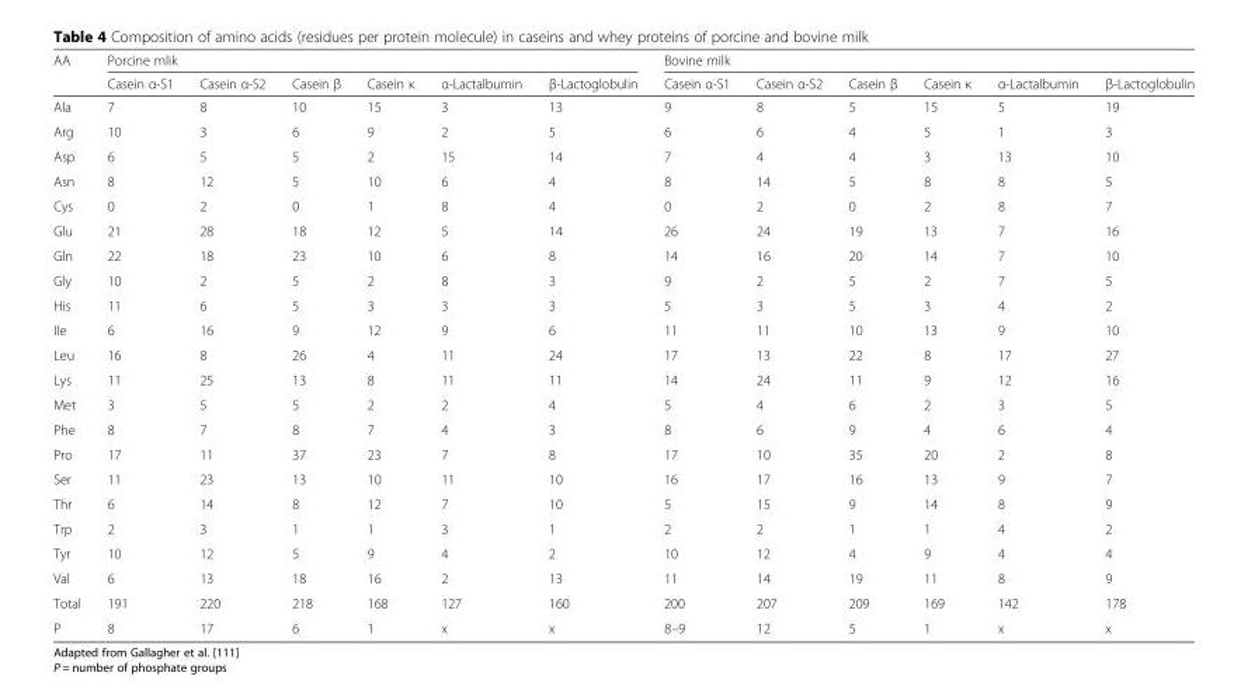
<table><thead><tr><td rowspan="2">AA</td><td colspan="6">Porcine mlik</td><td colspan="6">Bovine milk</td></tr><tr><td>Casein α-S1</td><td>Casein α-S2</td><td>Casein β</td><td>Casein κ</td><td>α-Lactalbumin</td><td>β-Lactoglobulin</td><td>Casein α-S1</td><td>Casein α-S2</td><td>Casein β</td><td>Casein κ</td><td>α-Lactalbumin</td><td>β-Lactoglobulin</td></tr></thead><tbody><tr><td>Ala</td><td>7</td><td>8</td><td>10</td><td>15</td><td>3</td><td>13</td><td>9</td><td>8</td><td>5</td><td>15</td><td>5</td><td>19</td></tr><tr><td>Arg</td><td>10</td><td>3</td><td>6</td><td>9</td><td>2</td><td>5</td><td>6</td><td>6</td><td>4</td><td>5</td><td>1</td><td>3</td></tr><tr><td>Asp</td><td>6</td><td>5</td><td>5</td><td>2</td><td>15</td><td>14</td><td>7</td><td>4</td><td>4</td><td>3</td><td>13</td><td>10</td></tr><tr><td>Asn</td><td>8</td><td>12</td><td>5</td><td>10</td><td>6</td><td>4</td><td>8</td><td>14</td><td>5</td><td>8</td><td>8</td><td>5</td></tr><tr><td>Cys</td><td>0</td><td>2</td><td>0</td><td>1</td><td>8</td><td>4</td><td>0</td><td>2</td><td>0</td><td>2</td><td>8</td><td>7</td></tr><tr><td>Glu</td><td>21</td><td>28</td><td>18</td><td>12</td><td>5</td><td>14</td><td>26</td><td>24</td><td>19</td><td>13</td><td>7</td><td>16</td></tr><tr><td>Gln</td><td>22</td><td>18</td><td>23</td><td>10</td><td>6</td><td>8</td><td>14</td><td>16</td><td>20</td><td>14</td><td>7</td><td>10</td></tr><tr><td>Gly</td><td>10</td><td>2</td><td>5</td><td>2</td><td>8</td><td>3</td><td>9</td><td>2</td><td>5</td><td>2</td><td>7</td><td>5</td></tr><tr><td>His</td><td>11</td><td>6</td><td>5</td><td>3</td><td>3</td><td>3</td><td>5</td><td>3</td><td>5</td><td>3</td><td>4</td><td>2</td></tr><tr><td>Ile</td><td>6</td><td>16</td><td>9</td><td>12</td><td>9</td><td>6</td><td>11</td><td>11</td><td>10</td><td>13</td><td>9</td><td>10</td></tr><tr><td>Leu</td><td>16</td><td>8</td><td>26</td><td>4</td><td>11</td><td>24</td><td>17</td><td>13</td><td>22</td><td>8</td><td>17</td><td>27</td></tr><tr><td>Lys</td><td>11</td><td>25</td><td>13</td><td>8</td><td>11</td><td>11</td><td>14</td><td>24</td><td>11</td><td>9</td><td>12</td><td>16</td></tr><tr><td>Met</td><td>3</td><td>5</td><td>5</td><td>2</td><td>2</td><td>4</td><td>5</td><td>4</td><td>6</td><td>2</td><td>3</td><td>5</td></tr><tr><td>Phe</td><td>8</td><td>7</td><td>8</td><td>7</td><td>4</td><td>3</td><td>8</td><td>6</td><td>9</td><td>4</td><td>6</td><td>4</td></tr><tr><td>Pro</td><td>17</td><td>11</td><td>37</td><td>23</td><td>7</td><td>8</td><td>17</td><td>10</td><td>35</td><td>20</td><td>2</td><td>8</td></tr><tr><td>Ser</td><td>11</td><td>23</td><td>13</td><td>10</td><td>11</td><td>10</td><td>16</td><td>17</td><td>16</td><td>13</td><td>9</td><td>7</td></tr><tr><td>Thr</td><td>6</td><td>14</td><td>8</td><td>12</td><td>7</td><td>10</td><td>5</td><td>15</td><td>9</td><td>14</td><td>8</td><td>9</td></tr><tr><td>Trp</td><td>2</td><td>3</td><td>1</td><td>1</td><td>3</td><td>1</td><td>2</td><td>2</td><td>1</td><td>1</td><td>4</td><td>2</td></tr><tr><td>Tyr</td><td>10</td><td>12</td><td>5</td><td>9</td><td>4</td><td>2</td><td>10</td><td>12</td><td>4</td><td>9</td><td>4</td><td>4</td></tr><tr><td>Val</td><td>6</td><td>13</td><td>18</td><td>16</td><td>2</td><td>13</td><td>11</td><td>14</td><td>19</td><td>11</td><td>8</td><td>9</td></tr><tr><td>Total</td><td>191</td><td>220</td><td>218</td><td>168</td><td>127</td><td>160</td><td>200</td><td>207</td><td>209</td><td>169</td><td>142</td><td>178</td></tr><tr><td>P</td><td>8</td><td>17</td><td>6</td><td>1</td><td>x</td><td>x</td><td>8–9</td><td>12</td><td>5</td><td>1</td><td>x</td><td>x</td></tr></tbody></table>